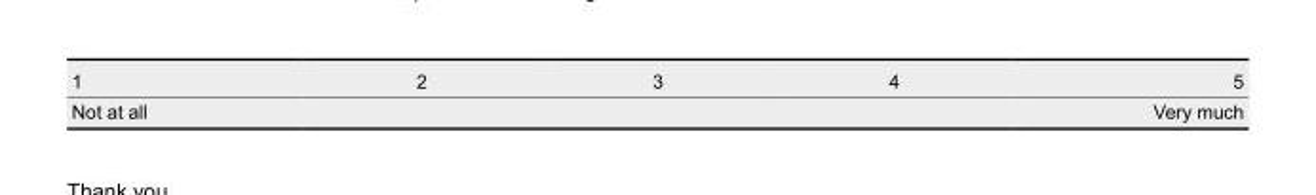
<table><tbody><tr><td>1</td><td>2</td><td>3</td><td>4</td><td>5</td></tr><tr><td>Not at all</td><td></td><td></td><td></td><td>Very much</td></tr></tbody></table>